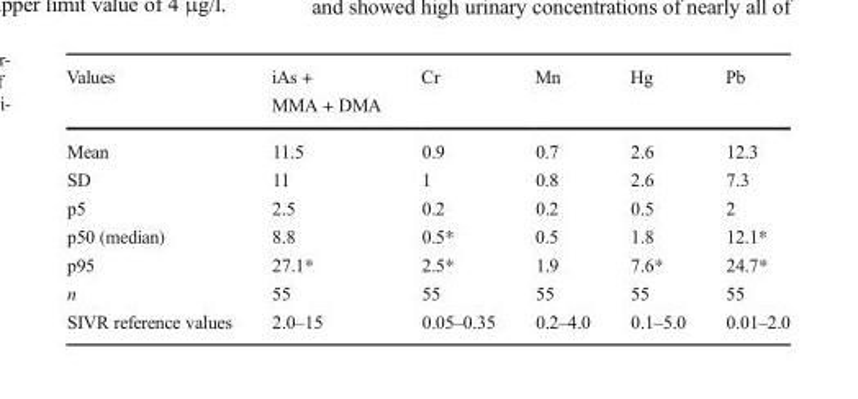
<table><thead><tr><td>Values</td><td>iAs + MMA + DMA</td><td>Cr</td><td>Mn</td><td>Hg</td><td>Pb</td></tr></thead><tbody><tr><td>Mean</td><td>11.5</td><td>0.9</td><td>0.7</td><td>2.6</td><td>12.3</td></tr><tr><td>SD</td><td>11</td><td>1</td><td>0.8</td><td>2.6</td><td>7.3</td></tr><tr><td>p5</td><td>2.5</td><td>0.2</td><td>0.2</td><td>0.5</td><td>2</td></tr><tr><td>p50 (median)</td><td>8.8</td><td>0.5*</td><td>0.5</td><td>1.8</td><td>12.1*</td></tr><tr><td>p95</td><td>27.1*</td><td>2.5*</td><td>1.9</td><td>7.6*</td><td>24.7*</td></tr><tr><td>n</td><td>55</td><td>55</td><td>55</td><td>55</td><td>55</td></tr><tr><td>SIVR reference values</td><td>2.0–15</td><td>0.05–0.35</td><td>0.2–4.0</td><td>0.1–5.0</td><td>0.01–2.0</td></tr></tbody></table>